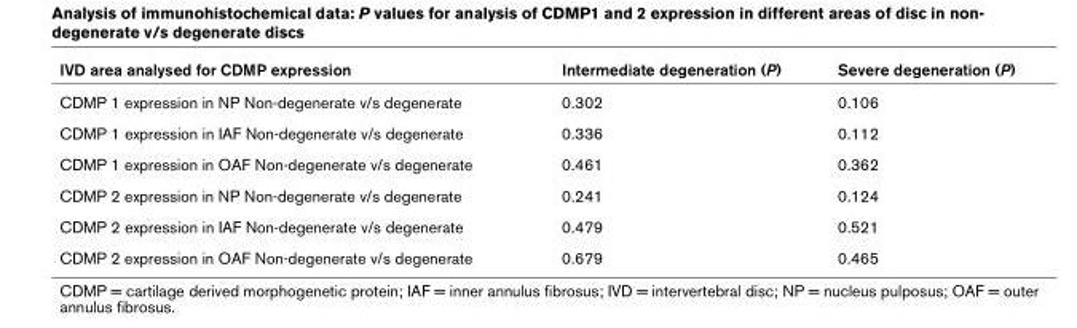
<table><thead><tr><td>IVD area analysed for CDMP expression</td><td>Intermediate degeneration (P)</td><td>Severe degeneration (P)</td></tr></thead><tbody><tr><td>CDMP 1 expression in NP Non-degenerate v/s degenerate</td><td>0.302</td><td>0.106</td></tr><tr><td>CDMP 1 expression in IAF Non-degenerate v/s degenerate</td><td>0.336</td><td>0.112</td></tr><tr><td>CDMP 1 expression in OAF Non-degenerate v/s degenerate</td><td>0.461</td><td>0.362</td></tr><tr><td>CDMP 2 expression in NP Non-degenerate v/s degenerate</td><td>0.241</td><td>0.124</td></tr><tr><td>CDMP 2 expression in IAF Non-degenerate v/s degenerate</td><td>0.479</td><td>0.521</td></tr><tr><td>CDMP 2 expression in OAF Non-degenerate v/s degenerate</td><td>0.679</td><td>0.465</td></tr></tbody></table>